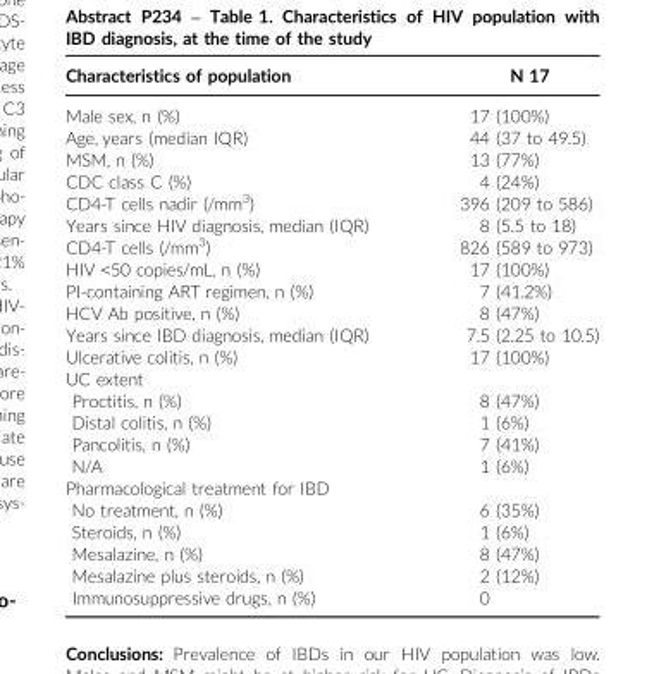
<table><thead><tr><td>Characteristics of population</td><td>N 17</td></tr></thead><tbody><tr><td>Male sex, n (%)</td><td>17 (100%)</td></tr><tr><td>Age, years (median IQR)</td><td>44 (37 to 49.5)</td></tr><tr><td>MSM, n (%)</td><td>13 (77%)</td></tr><tr><td>CDC class C (%)</td><td>4 (24%)</td></tr><tr><td>CD4-T cells nadir (/mm<sup>3</sup>)</td><td>396 (209 to 586)</td></tr><tr><td>Years since HIV diagnosis, median (IQR)</td><td>8 (5.5 to 18)</td></tr><tr><td>CD4-T cells (/mm<sup>3</sup>)</td><td>826 (589 to 973)</td></tr><tr><td>HIV &lt;50 copies/mL, n (%)</td><td>17 (100%)</td></tr><tr><td>PI-containing ART regimen, n (%)</td><td>7 (41.2%)</td></tr><tr><td>HCV Ab positive, n (%)</td><td>8 (47%)</td></tr><tr><td>Years since IBD diagnosis, median (IQR)</td><td>7.5 (2.25 to 10.5)</td></tr><tr><td>Ulcerative colitis, n (%)</td><td>17 (100%)</td></tr><tr><td colspan="2">UC extent</td></tr><tr><td>Proctitis, n (%)</td><td>8 (47%)</td></tr><tr><td>Distal colitis, n (%)</td><td>1 (6%)</td></tr><tr><td>Pancolitis, n (%)</td><td>7 (41%)</td></tr><tr><td>N/A</td><td>1 (6%)</td></tr><tr><td colspan="2">Pharmacological treatment for IBD</td></tr><tr><td>No treatment, n (%)</td><td>6 (35%)</td></tr><tr><td>Steroids, n (%)</td><td>1 (6%)</td></tr><tr><td>Mesalazine, n (%)</td><td>8 (47%)</td></tr><tr><td>Mesalazine plus steroids, n (%)</td><td>2 (12%)</td></tr><tr><td>Immunosuppressive drugs, n (%)</td><td>0</td></tr></tbody></table>